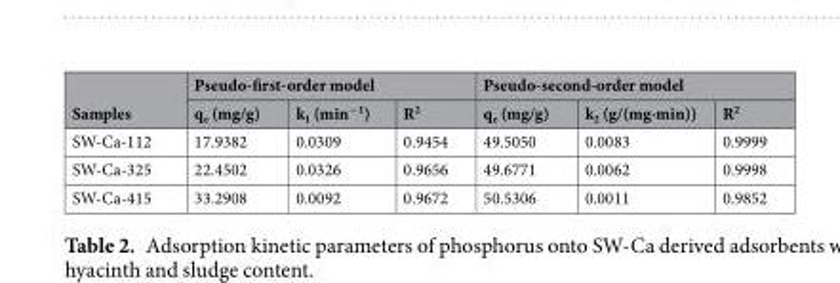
<table><thead><tr><td rowspan="2">Samples</td><td colspan="3">Pseudo-first-order model</td><td colspan="3">Pseudo-second-order model</td></tr><tr><td>q<sub>e</sub> (mg/g)</td><td>k<sub>1</sub> (min<sup>−1</sup>)</td><td>R<sup>2</sup></td><td>q<sub>e</sub> (mg/g)</td><td>k<sub>2</sub> (g/(mg·min))</td><td>R<sup>2</sup></td></tr></thead><tbody><tr><td>SW-Ca-112</td><td>17.9382</td><td>0.0309</td><td>0.9454</td><td>49.5050</td><td>0.0083</td><td>0.9999</td></tr><tr><td>SW-Ca-325</td><td>22.4502</td><td>0.0326</td><td>0.9656</td><td>49.6771</td><td>0.0062</td><td>0.9998</td></tr><tr><td>SW-Ca-415</td><td>33.2908</td><td>0.0092</td><td>0.9672</td><td>50.5306</td><td>0.0011</td><td>0.9852</td></tr></tbody></table>